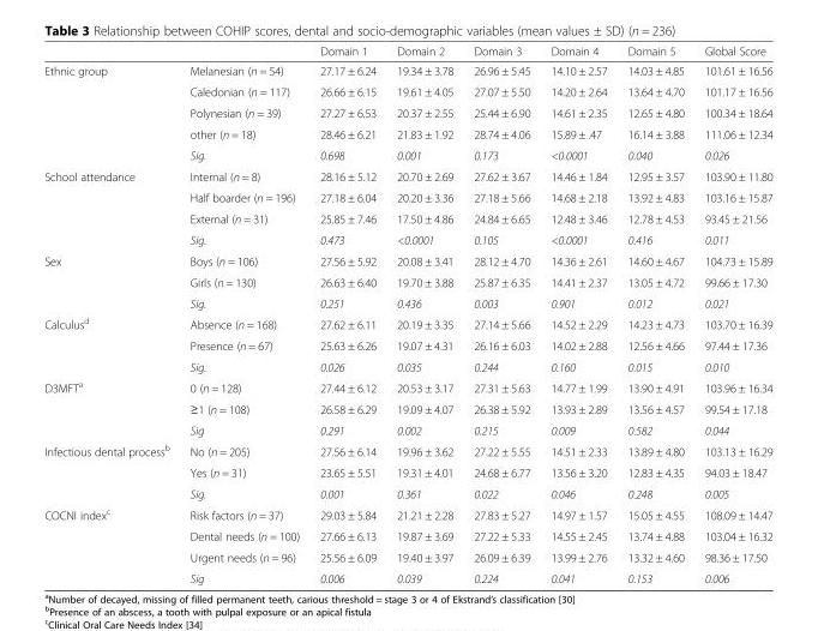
<table><thead><tr><td></td><td></td><td>Domain 1</td><td>Domain 2</td><td>Domain 3</td><td>Domain 4</td><td>Domain 5</td><td>Global Score</td></tr></thead><tbody><tr><td rowspan="5">Ethnic group</td><td>Melanesian (n = 54)</td><td>27.17 ± 6.24</td><td>19.34 ± 3.78</td><td>26.96 ± 5.45</td><td>14.10 ± 2.57</td><td>14.03 ± 4.85</td><td>101.61 ± 16.56</td></tr><tr><td>Caledonian (n = 117)</td><td>26.66 ± 6.15</td><td>19.61 ± 4.05</td><td>27.07 ± 5.50</td><td>14.20 ± 2.64</td><td>13.64 ± 4.70</td><td>101.17 ± 16.56</td></tr><tr><td>Polynesian (n = 39)</td><td>27.27 ± 6.53</td><td>20.37 ± 2.55</td><td>25.44 ± 6.90</td><td>14.61 ± 2.35</td><td>12.65 ± 4.80</td><td>100.34 ± 18.64</td></tr><tr><td>other (n = 18)</td><td>28.46 ± 6.21</td><td>21.83 ± 1.92</td><td>28.74 ± 4.06</td><td>15.89 ± .47</td><td>16.14 ± 3.88</td><td>111.06 ± 12.34</td></tr><tr><td>Sig.</td><td>0.698</td><td>0.001</td><td>0.173</td><td>&lt;0.0001</td><td>0.040</td><td>0.026</td></tr><tr><td rowspan="4">School attendance</td><td>Internal (n = 8)</td><td>28.16 ± 5.12</td><td>20.70 ± 2.69</td><td>27.62 ± 3.67</td><td>14.46 ± 1.84</td><td>12.95 ± 3.57</td><td>103.90 ± 11.80</td></tr><tr><td>Half boarder (n = 196)</td><td>27.18 ± 6.04</td><td>20.20 ± 3.36</td><td>27.18 ± 5.66</td><td>14.68 ± 2.18</td><td>13.92 ± 4.83</td><td>103.16 ± 15.87</td></tr><tr><td>External (n = 31)</td><td>25.85 ± 7.46</td><td>17.50 ± 4.86</td><td>24.84 ± 6.65</td><td>12.48 ± 3.46</td><td>12.78 ± 4.53</td><td>93.45 ± 21.56</td></tr><tr><td>Sig.</td><td>0.473</td><td>&lt;0.0001</td><td>0.105</td><td>&lt;0.0001</td><td>0.416</td><td>0.011</td></tr><tr><td rowspan="3">Sex</td><td>Boys (n = 106)</td><td>27.56 ± 5.92</td><td>20.08 ± 3.41</td><td>28.12 ± 4.70</td><td>14.36 ± 2.61</td><td>14.60 ± 4.67</td><td>104.73 ± 15.89</td></tr><tr><td>Girls (n = 130)</td><td>26.63 ± 6.40</td><td>19.70 ± 3.88</td><td>25.87 ± 6.35</td><td>14.41 ± 2.37</td><td>13.05 ± 4.72</td><td>99.66 ± 17.30</td></tr><tr><td>Sig.</td><td>0.251</td><td>0.436</td><td>0.003</td><td>0.901</td><td>0.012</td><td>0.021</td></tr><tr><td rowspan="3">Calculus<sup>d</sup></td><td>Absence (n = 168)</td><td>27.62 ± 6.11</td><td>20.19 ± 3.35</td><td>27.14 ± 5.66</td><td>14.52 ± 2.29</td><td>14.23 ± 4.73</td><td>103.70 ± 16.39</td></tr><tr><td>Presence (n = 67)</td><td>25.63 ± 6.26</td><td>19.07 ± 4.31</td><td>26.16 ± 6.03</td><td>14.02 ± 2.88</td><td>12.56 ± 4.66</td><td>97.44 ± 17.36</td></tr><tr><td>Sig.</td><td>0.026</td><td>0.035</td><td>0.244</td><td>0.160</td><td>0.015</td><td>0.010</td></tr><tr><td rowspan="3">D3MFT<sup>a</sup></td><td>0 (n = 128)</td><td>27.44 ± 6.12</td><td>20.53 ± 3.17</td><td>27.31 ± 5.63</td><td>14.77 ± 1.99</td><td>13.90 ± 4.91</td><td>103.96 ± 16.34</td></tr><tr><td>≥1 (n = 108)</td><td>26.58 ± 6.29</td><td>19.09 ± 4.07</td><td>26.38 ± 5.92</td><td>13.93 ± 2.89</td><td>13.56 ± 4.57</td><td>99.54 ± 17.18</td></tr><tr><td>Sig</td><td>0.291</td><td>0.002</td><td>0.215</td><td>0.009</td><td>0.582</td><td>0.044</td></tr><tr><td rowspan="3">Infectious dental process<sup>b</sup></td><td>No (n = 205)</td><td>27.56 ± 6.14</td><td>19.96 ± 3.62</td><td>27.22 ± 5.55</td><td>14.51 ± 2.33</td><td>13.89 ± 4.80</td><td>103.13 ± 16.29</td></tr><tr><td>Yes (n = 31)</td><td>23.65 ± 5.51</td><td>19.31 ± 4.01</td><td>24.68 ± 6.77</td><td>13.56 ± 3.20</td><td>12.83 ± 4.35</td><td>94.03 ± 18.47</td></tr><tr><td>Sig.</td><td>0.001</td><td>0.361</td><td>0.022</td><td>0.046</td><td>0.248</td><td>0.005</td></tr><tr><td rowspan="4">COCNI index<sup>c</sup></td><td>Risk factors (n = 37)</td><td>29.03 ± 5.84</td><td>21.21 ± 2.28</td><td>27.83 ± 5.27</td><td>14.97 ± 1.57</td><td>15.05 ± 4.55</td><td>108.09 ± 14.47</td></tr><tr><td>Dental needs (n = 100)</td><td>27.66 ± 6.13</td><td>19.87 ± 3.69</td><td>27.22 ± 5.33</td><td>14.55 ± 2.45</td><td>13.74 ± 4.88</td><td>103.04 ± 16.32</td></tr><tr><td>Urgent needs (n = 96)</td><td>25.56 ± 6.09</td><td>19.40 ± 3.97</td><td>26.09 ± 6.39</td><td>13.99 ± 2.76</td><td>13.32 ± 4.60</td><td>98.36 ± 17.50</td></tr><tr><td>Sig</td><td>0.006</td><td>0.039</td><td>0.224</td><td>0.041</td><td>0.153</td><td>0.006</td></tr></tbody></table>